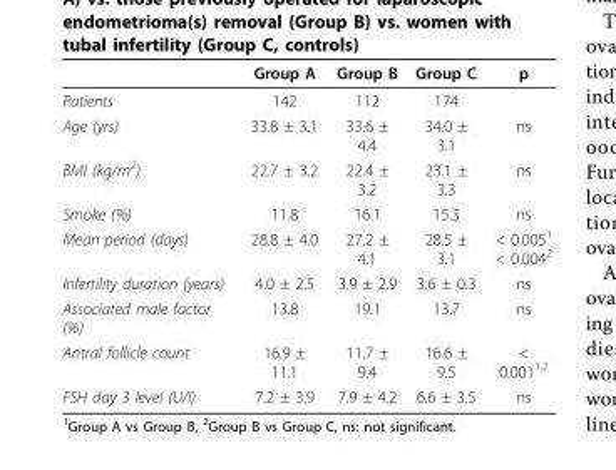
<table><thead><tr><td></td><td>Group A</td><td>Group B</td><td>Group C</td><td>p</td></tr></thead><tbody><tr><td>Patients</td><td>142</td><td>112</td><td>174</td><td></td></tr><tr><td>Age (yrs)</td><td>33.8 ± 3.1</td><td>33.6 ± 4.4</td><td>34.0 ± 3.1</td><td>ns</td></tr><tr><td>BMI (kg/m<sup>2</sup>)</td><td>22.7 ± 3.2</td><td>22.4 ± 3.2</td><td>23.1 ± 3.3</td><td>ns</td></tr><tr><td>Smoke (%)</td><td>11.8</td><td>16.1</td><td>15.3</td><td>ns</td></tr><tr><td>Mean period (days)</td><td>28.8 ± 4.0</td><td>27.2 ± 4.1</td><td>28.5 ± 3.1</td><td>&lt; 0.005<sup>1</sup> &lt; 0.004<sup>2</sup></td></tr><tr><td>Infertility duration (years)</td><td>4.0 ± 2.5</td><td>3.9 ± 2.9</td><td>3.6 ± 0.3</td><td>ns</td></tr><tr><td>Associated male factor (%)</td><td>13.8</td><td>19.1</td><td>13.7</td><td>ns</td></tr><tr><td>Antral follicle count</td><td>16.9 ± 11.1</td><td>11.7 ± 9.4</td><td>16.6 ± 9.5</td><td>&lt; 0.001<sup>1,2</sup></td></tr><tr><td>FSH day 3 level (U/l)</td><td>7.2 ± 3.9</td><td>7.9 ± 4.2</td><td>6.6 ± 3.5</td><td>ns</td></tr></tbody></table>